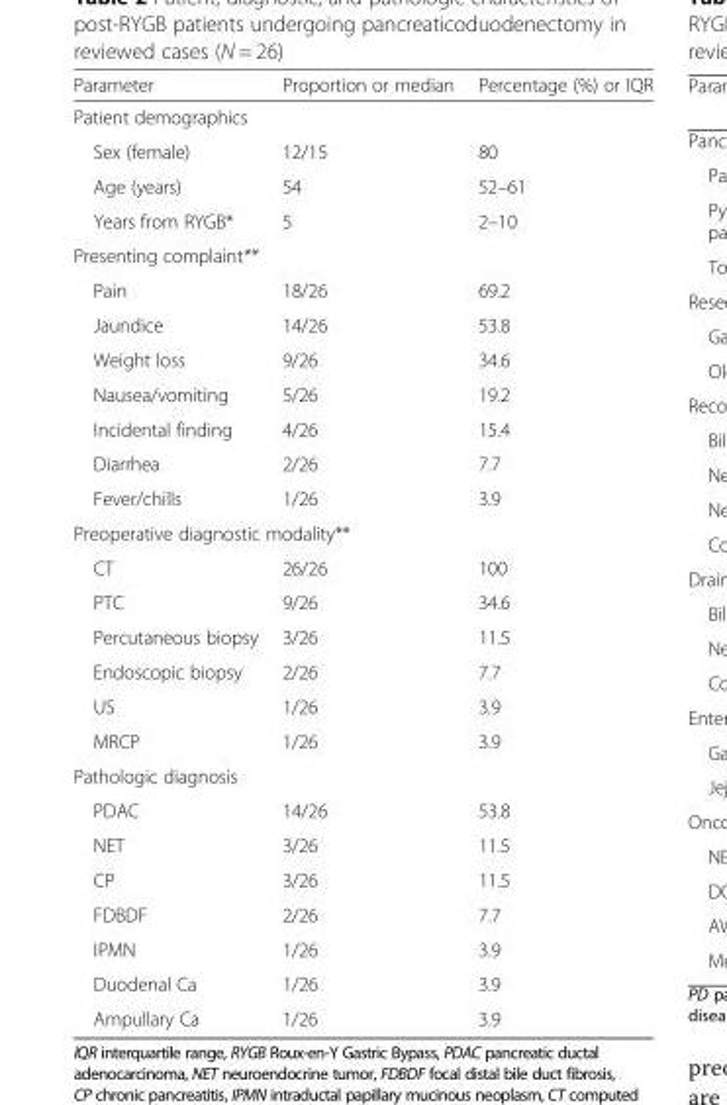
<table><thead><tr><td>Parameter</td><td>Proportion or median</td><td>Percentage (%) or IQR</td></tr></thead><tbody><tr><td colspan="3">Patient demographics</td></tr><tr><td>Sex (female)</td><td>12/15</td><td>80</td></tr><tr><td>Age (years)</td><td>54</td><td>52–61</td></tr><tr><td>Years from RYGB*</td><td>5</td><td>2–10</td></tr><tr><td colspan="3">Presenting complaint**</td></tr><tr><td>Pain</td><td>18/26</td><td>69.2</td></tr><tr><td>Jaundice</td><td>14/26</td><td>53.8</td></tr><tr><td>Weight loss</td><td>9/26</td><td>34.6</td></tr><tr><td>Nausea/vomiting</td><td>5/26</td><td>19.2</td></tr><tr><td>Incidental finding</td><td>4/26</td><td>15.4</td></tr><tr><td>Diarrhea</td><td>2/26</td><td>7.7</td></tr><tr><td>Fever/chills</td><td>1/26</td><td>3.9</td></tr><tr><td colspan="3">Preoperative diagnostic modality**</td></tr><tr><td>CT</td><td>26/26</td><td>100</td></tr><tr><td>PTC</td><td>9/26</td><td>34.6</td></tr><tr><td>Percutaneous biopsy</td><td>3/26</td><td>11.5</td></tr><tr><td>Endoscopic biopsy</td><td>2/26</td><td>7.7</td></tr><tr><td>US</td><td>1/26</td><td>3.9</td></tr><tr><td>MRCP</td><td>1/26</td><td>3.9</td></tr><tr><td colspan="3">Pathologic diagnosis</td></tr><tr><td>PDAC</td><td>14/26</td><td>53.8</td></tr><tr><td>NET</td><td>3/26</td><td>11.5</td></tr><tr><td>CP</td><td>3/26</td><td>11.5</td></tr><tr><td>FDBDF</td><td>2/26</td><td>7.7</td></tr><tr><td>IPMN</td><td>1/26</td><td>3.9</td></tr><tr><td>Duodenal Ca</td><td>1/26</td><td>3.9</td></tr><tr><td>Ampullary Ca</td><td>1/26</td><td>3.9</td></tr></tbody></table>